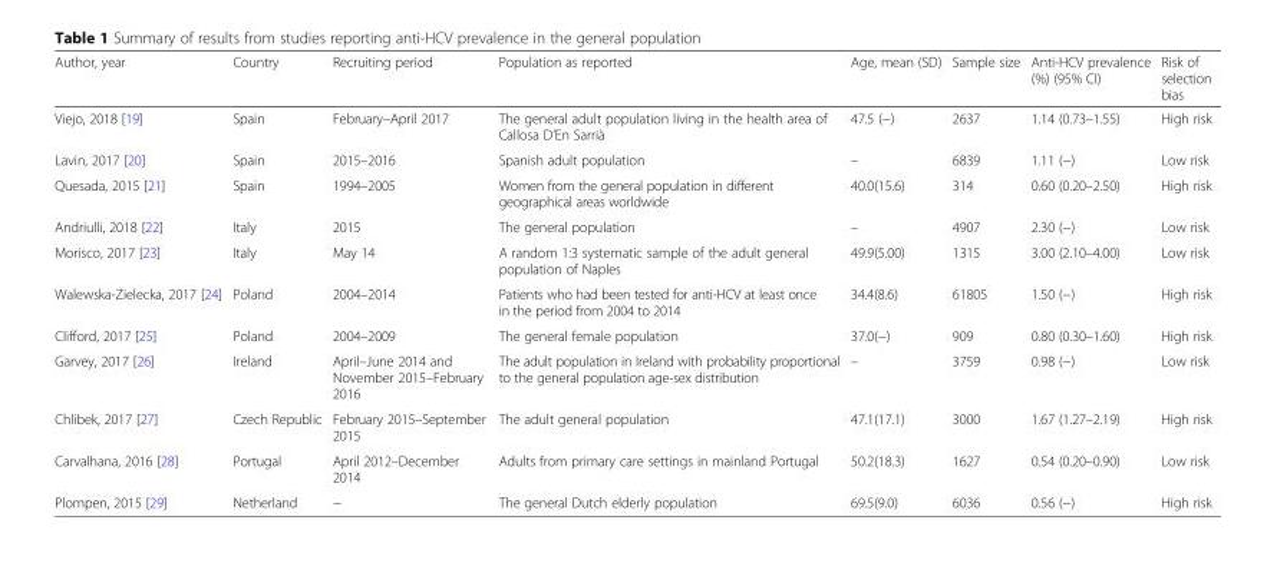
<table><thead><tr><td>Author, year</td><td>Country</td><td>Recruiting period</td><td>Population as reported</td><td>Age, mean (SD)</td><td>Sample size</td><td>Anti-HCV prevalence (%) (95% CI)</td><td>Risk of selection bias</td></tr></thead><tbody><tr><td>Viejo, 2018 [19]</td><td>Spain</td><td>February–April 2017</td><td>The general adult population living in the health area of Callosa D’En Sarrià</td><td>47.5 (−)</td><td>2637</td><td>1.14 (0.73–1.55)</td><td>High risk</td></tr><tr><td>Lavin, 2017 [20]</td><td>Spain</td><td>2015–2016</td><td>Spanish adult population</td><td>–</td><td>6839</td><td>1.11 (−)</td><td>Low risk</td></tr><tr><td>Quesada, 2015 [21]</td><td>Spain</td><td>1994–2005</td><td>Women from the general population in different geographical areas worldwide</td><td>40.0(15.6)</td><td>314</td><td>0.60 (0.20–2.50)</td><td>High risk</td></tr><tr><td>Andriulli, 2018 [22]</td><td>Italy</td><td>2015</td><td>The general population</td><td>–</td><td>4907</td><td>2.30 (−)</td><td>Low risk</td></tr><tr><td>Morisco, 2017 [23]</td><td>Italy</td><td>May 14</td><td>A random 1:3 systematic sample of the adult general population of Naples</td><td>49.9(5.00)</td><td>1315</td><td>3.00 (2.10–4.00)</td><td>Low risk</td></tr><tr><td>Walewska-Zielecka, 2017 [24]</td><td>Poland</td><td>2004–2014</td><td>Patients who had been tested for anti-HCV at least once in the period from 2004 to 2014</td><td>34.4(8.6)</td><td>61805</td><td>1.50 (−)</td><td>High risk</td></tr><tr><td>Clifford, 2017 [25]</td><td>Poland</td><td>2004–2009</td><td>The general female population</td><td>37.0(−)</td><td>909</td><td>0.80 (0.30–1.60)</td><td>High risk</td></tr><tr><td>Garvey, 2017 [26]</td><td>Ireland</td><td>April–June 2014 and November 2015–February 2016</td><td>The adult population in Ireland with probability proportional to the general population age-sex distribution</td><td>–</td><td>3759</td><td>0.98 (−)</td><td>Low risk</td></tr><tr><td>Chlibek, 2017 [27]</td><td>Czech Republic</td><td>February 2015–September 2015</td><td>The adult general population</td><td>47.1(17.1)</td><td>3000</td><td>1.67 (1.27–2.19)</td><td>High risk</td></tr><tr><td>Carvalhana, 2016 [28]</td><td>Portugal</td><td>April 2012–December 2014</td><td>Adults from primary care settings in mainland Portugal</td><td>50.2(18.3)</td><td>1627</td><td>0.54 (0.20–0.90)</td><td>Low risk</td></tr><tr><td>Plompen, 2015 [29]</td><td>Netherland</td><td>−</td><td>The general Dutch elderly population</td><td>69.5(9.0)</td><td>6036</td><td>0.56 (−)</td><td>High risk</td></tr></tbody></table>